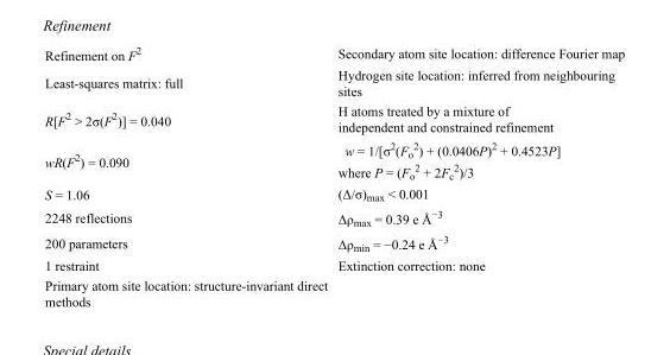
<table><tbody><tr><td>Refinement on F<sup>2</sup></td><td>Secondary atom site location: difference Fourier map</td></tr><tr><td>Least-squares matrix: full</td><td>Hydrogen site location: inferred from neighbouring sites</td></tr><tr><td>R[F<sup>2</sup> &gt; 2σ(F<sup>2</sup>)] = 0.040</td><td>H atoms treated by a mixture of independent and constrained refinement</td></tr><tr><td>wR(F<sup>2</sup>) = 0.090</td><td>w = 1/[σ<sup>2</sup>(F<sub>o</sub> <sup>2</sup>) + (0.0406P)<sup>2</sup> + 0.4523P] where P = (F<sub>o</sub> <sup>2</sup> + 2F<sub>c</sub> <sup>2</sup>)/3</td></tr><tr><td>S = 1.06</td><td>(Δ/σ)<sub>max</sub> &lt; 0.001</td></tr><tr><td>2248 reflections</td><td>Δρ<sub>max</sub> = 0.39 e Å<sup>−3</sup></td></tr><tr><td>200 parameters</td><td>Δρ<sub>min</sub> = −0.24 e Å<sup>−3</sup></td></tr><tr><td>1 restraint</td><td>Extinction correction: none</td></tr><tr><td>Primary atom site location: structure-invariant direct methods</td><td></td></tr></tbody></table>